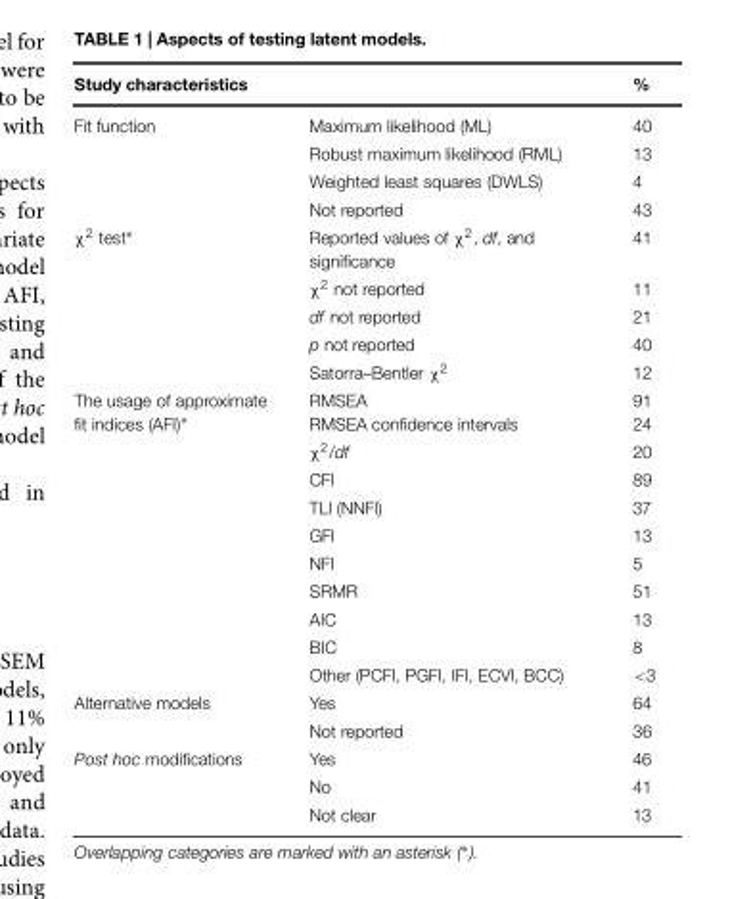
<table><thead><tr><td>Study characteristics</td><td></td><td>%</td></tr></thead><tbody><tr><td rowspan="4">Fit function</td><td>Maximum likelihood (ML)</td><td>40</td></tr><tr><td>Robust maximum likelihood (RML)</td><td>13</td></tr><tr><td>Weighted least squares (DWLS)</td><td>4</td></tr><tr><td>Not reported</td><td>43</td></tr><tr><td rowspan="5">χ<sup>2</sup> test∗</td><td>Reported values of χ<sup>2</sup>, df, and significance</td><td>41</td></tr><tr><td>χ<sup>2</sup> not reported</td><td>11</td></tr><tr><td>df not reported</td><td>21</td></tr><tr><td>p not reported</td><td>40</td></tr><tr><td>Satorra–Bentler χ<sup>2</sup></td><td>12</td></tr><tr><td rowspan="10">The usage of approximate fit indices (AFI)∗</td><td>RMSEA RMSEA confidence intervals</td><td>91 24</td></tr><tr><td>χ<sup>2</sup>/df</td><td>20</td></tr><tr><td>CFI</td><td>89</td></tr><tr><td>TLI (NNFI)</td><td>37</td></tr><tr><td>GFI</td><td>13</td></tr><tr><td>NFI</td><td>5</td></tr><tr><td>SRMR</td><td>51</td></tr><tr><td>AIC</td><td>13</td></tr><tr><td>BIC</td><td>8</td></tr><tr><td>Other (PCFI, PGFI, IFI, ECVI, BCC)</td><td>&lt;3</td></tr><tr><td rowspan="2">Alternative models</td><td>Yes</td><td>64</td></tr><tr><td>Not reported</td><td>36</td></tr><tr><td rowspan="3">Post hoc modifications</td><td>Yes</td><td>46</td></tr><tr><td>No</td><td>41</td></tr><tr><td>Not clear</td><td>13</td></tr></tbody></table>